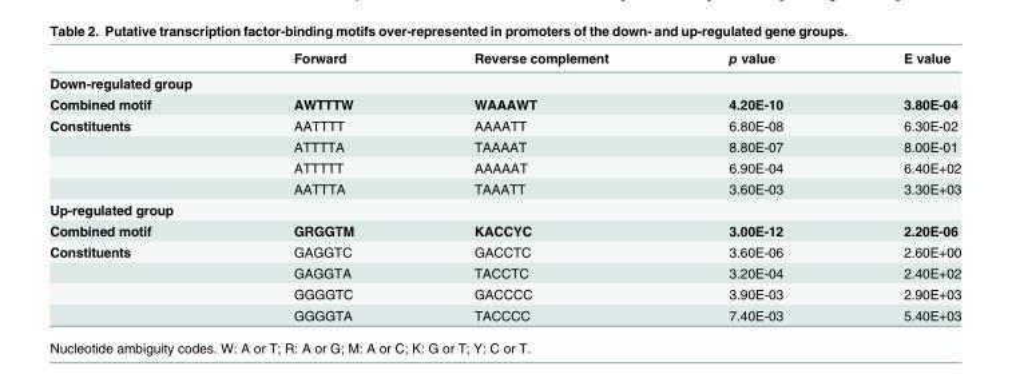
<table><thead><tr><td></td><td>Forward</td><td>Reverse complement</td><td>p value</td><td>E value</td></tr></thead><tbody><tr><td colspan="5">Down-regulated group</td></tr><tr><td>Combined motif</td><td>AWTTTW</td><td>WAAAWT</td><td>4.20E-10</td><td>3.80E-04</td></tr><tr><td rowspan="4">Constituents</td><td>AATTTT</td><td>AAAATT</td><td>6.80E-08</td><td>6.30E-02</td></tr><tr><td>ATTTTA</td><td>TAAAAT</td><td>8.80E-07</td><td>8.00E-01</td></tr><tr><td>ATTTTT</td><td>AAAAAT</td><td>6.90E-04</td><td>6.40E+02</td></tr><tr><td>AATTTA</td><td>TAAATT</td><td>3.60E-03</td><td>3.30E+03</td></tr><tr><td colspan="5">Up-regulated group</td></tr><tr><td>Combined motif</td><td>GRGGTM</td><td>KACCYC</td><td>3.00E-12</td><td>2.20E-06</td></tr><tr><td rowspan="4">Constituents</td><td>GAGGTC</td><td>GACCTC</td><td>3.60E-06</td><td>2.60E+00</td></tr><tr><td>GAGGTA</td><td>TACCTC</td><td>3.20E-04</td><td>2.40E+02</td></tr><tr><td>GGGGTC</td><td>GACCCC</td><td>3.90E-03</td><td>2.90E+03</td></tr><tr><td>GGGGTA</td><td>TACCCC</td><td>7.40E-03</td><td>5.40E+03</td></tr></tbody></table>